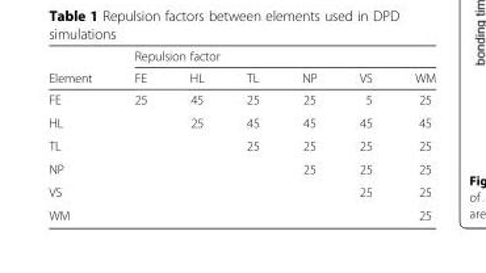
<table><thead><tr><td rowspan="2">Element</td><td colspan="6">Repulsion factor</td></tr><tr><td>FE</td><td>HL</td><td>TL</td><td>NP</td><td>VS</td><td>WM</td></tr></thead><tbody><tr><td>FE</td><td>25</td><td>45</td><td>25</td><td>25</td><td>5</td><td>25</td></tr><tr><td>HL</td><td></td><td>25</td><td>45</td><td>45</td><td>45</td><td>45</td></tr><tr><td>TL</td><td></td><td></td><td>25</td><td>25</td><td>25</td><td>25</td></tr><tr><td>NP</td><td></td><td></td><td></td><td>25</td><td>25</td><td>25</td></tr><tr><td>VS</td><td></td><td></td><td></td><td></td><td>25</td><td>25</td></tr><tr><td>WM</td><td></td><td></td><td></td><td></td><td></td><td>25</td></tr></tbody></table>